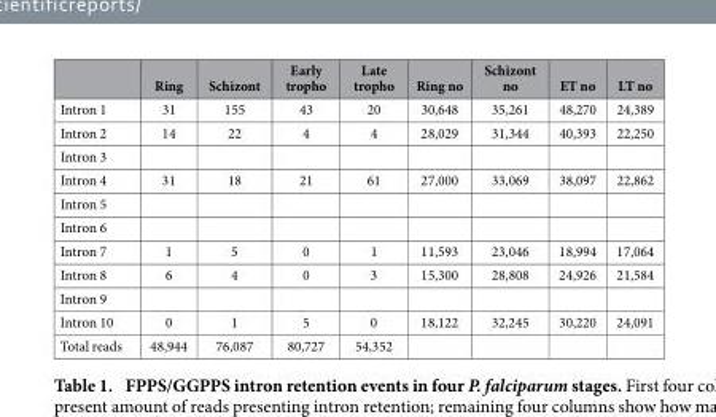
<table><thead><tr><td></td><td>Ring</td><td>Schizont</td><td>Early tropho</td><td>Late tropho</td><td>Ring no</td><td>Schizont no</td><td>ET no</td><td>LT no</td></tr></thead><tbody><tr><td>Intron 1</td><td>31</td><td>155</td><td>43</td><td>20</td><td>30,648</td><td>35,261</td><td>48,270</td><td>24,389</td></tr><tr><td>Intron 2</td><td>14</td><td>22</td><td>4</td><td>4</td><td>28,029</td><td>31,344</td><td>40,393</td><td>22,250</td></tr><tr><td colspan="9">Intron 3</td></tr><tr><td>Intron 4</td><td>31</td><td>18</td><td>21</td><td>61</td><td>27,000</td><td>33,069</td><td>38,097</td><td>22,862</td></tr><tr><td colspan="9">Intron 5</td></tr><tr><td colspan="9">Intron 6</td></tr><tr><td>Intron 7</td><td>1</td><td>5</td><td>0</td><td>1</td><td>11,593</td><td>23,046</td><td>18,994</td><td>17,064</td></tr><tr><td>Intron 8</td><td>6</td><td>4</td><td>0</td><td>3</td><td>15,300</td><td>28,808</td><td>24,926</td><td>21,584</td></tr><tr><td colspan="9">Intron 9</td></tr><tr><td>Intron 10</td><td>0</td><td>1</td><td>5</td><td>0</td><td>18,122</td><td>32,245</td><td>30,220</td><td>24,091</td></tr><tr><td>Total reads</td><td>48,944</td><td>76,087</td><td>80,727</td><td>54,352</td><td></td><td></td><td></td><td></td></tr></tbody></table>